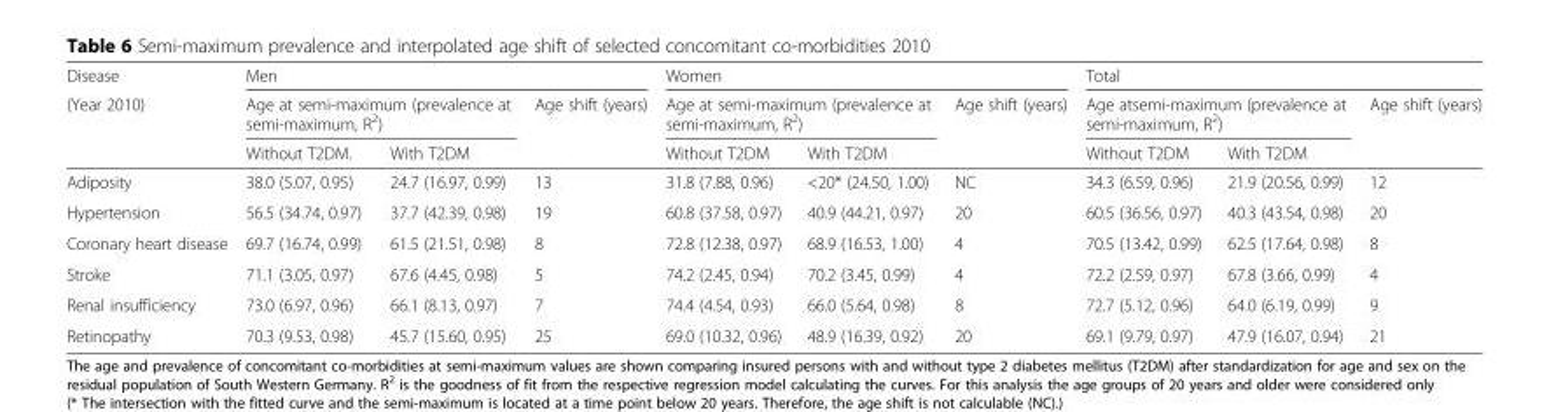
<table><thead><tr><td rowspan="3">Disease (Year 2010)</td><td colspan="3">Men</td><td colspan="3">Women</td><td colspan="3">Total</td></tr><tr><td colspan="2">Age at semi-maximum (prevalence at semi-maximum, R<sup>2</sup>)</td><td rowspan="2">Age shift (years)</td><td colspan="2">Age at semi-maximum (prevalence at semi-maximum, R<sup>2</sup>)</td><td rowspan="2">Age shift (years)</td><td colspan="2">Age atsemi-maximum (prevalence at semi-maximum, R<sup>2</sup>)</td><td rowspan="2">Age shift (years)</td></tr><tr><td>Without T2DM.</td><td>With T2DM</td><td>Without T2DM</td><td>With T2DM</td><td>Without T2DM</td><td>With T2DM</td></tr></thead><tbody><tr><td>Adiposity</td><td>38.0 (5.07, 0.95)</td><td>24.7 (16.97, 0.99)</td><td>13</td><td>31.8 (7.88, 0.96)</td><td>&lt;20* (24.50, 1.00)</td><td>NC</td><td>34.3 (6.59, 0.96)</td><td>21.9 (20.56, 0.99)</td><td>12</td></tr><tr><td>Hypertension</td><td>56.5 (34.74, 0.97)</td><td>37.7 (42.39, 0.98)</td><td>19</td><td>60.8 (37.58, 0.97)</td><td>40.9 (44.21, 0.97)</td><td>20</td><td>60.5 (36.56, 0.97)</td><td>40.3 (43.54, 0.98)</td><td>20</td></tr><tr><td>Coronary heart disease</td><td>69.7 (16.74, 0.99)</td><td>61.5 (21.51, 0.98)</td><td>8</td><td>72.8 (12.38, 0.97)</td><td>68.9 (16.53, 1.00)</td><td>4</td><td>70.5 (13.42, 0.99)</td><td>62.5 (17.64, 0.98)</td><td>8</td></tr><tr><td>Stroke</td><td>71.1 (3.05, 0.97)</td><td>67.6 (4.45, 0.98)</td><td>5</td><td>74.2 (2.45, 0.94)</td><td>70.2 (3.45, 0.99)</td><td>4</td><td>72.2 (2.59, 0.97)</td><td>67.8 (3.66, 0.99)</td><td>4</td></tr><tr><td>Renal insufficiency</td><td>73.0 (6.97, 0.96)</td><td>66.1 (8.13, 0.97)</td><td>7</td><td>74.4 (4.54, 0.93)</td><td>66.0 (5.64, 0.98)</td><td>8</td><td>72.7 (5.12, 0.96)</td><td>64.0 (6.19, 0.99)</td><td>9</td></tr><tr><td>Retinopathy</td><td>70.3 (9.53, 0.98)</td><td>45.7 (15.60, 0.95)</td><td>25</td><td>69.0 (10.32, 0.96)</td><td>48.9 (16.39, 0.92)</td><td>20</td><td>69.1 (9.79, 0.97)</td><td>47.9 (16.07, 0.94)</td><td>21</td></tr></tbody></table>